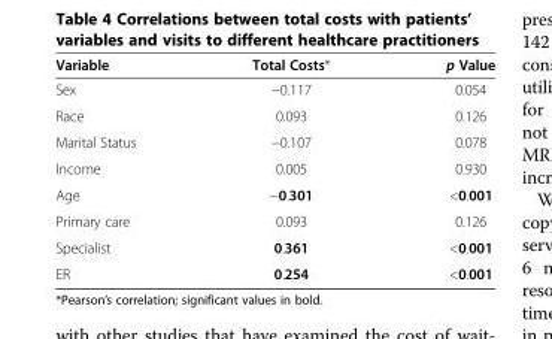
<table><thead><tr><td>Variable</td><td>Total Costs*</td><td>p Value</td></tr></thead><tbody><tr><td>Sex</td><td>−0.117</td><td>0.054</td></tr><tr><td>Race</td><td>0.093</td><td>0.126</td></tr><tr><td>Marital Status</td><td>−0.107</td><td>0.078</td></tr><tr><td>Income</td><td>0.005</td><td>0.930</td></tr><tr><td>Age</td><td>−0.301</td><td>&lt;0.001</td></tr><tr><td>Primary care</td><td>0.093</td><td>0.126</td></tr><tr><td>Specialist</td><td>0.361</td><td>&lt;0.001</td></tr><tr><td>ER</td><td>0.254</td><td>&lt;0.001</td></tr></tbody></table>